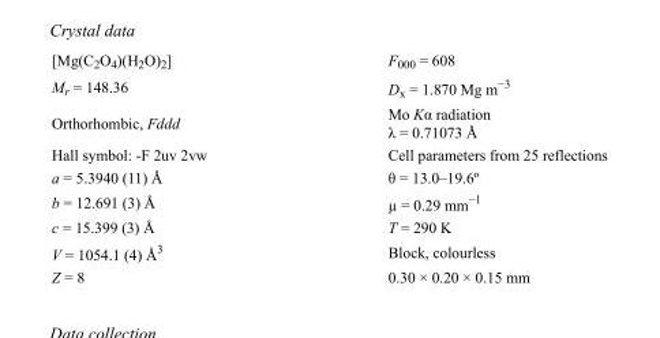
<table><tbody><tr><td>[Mg(C<sub>2</sub>O<sub>4</sub>)(H<sub>2</sub>O)<sub>2</sub>]</td><td>F<sub>000</sub> = 608</td></tr><tr><td>M<sub>r</sub> = 148.36</td><td>D<sub>x</sub> = 1.870 Mg m<sup>−3</sup></td></tr><tr><td>Orthorhombic, Fddd</td><td>Mo Kα radiation λ = 0.71073 Å</td></tr><tr><td>Hall symbol: -F 2uv 2vw</td><td>Cell parameters from 25 reflections</td></tr><tr><td>a = 5.3940 (11) Å</td><td>θ = 13.0–19.6º</td></tr><tr><td>b = 12.691 (3) Å</td><td>µ = 0.29 mm<sup>−1</sup></td></tr><tr><td>c = 15.399 (3) Å</td><td>T = 290 K</td></tr><tr><td>V = 1054.1 (4) Å<sup>3</sup></td><td>Block, colourless</td></tr><tr><td>Z = 8</td><td>0.30 × 0.20 × 0.15 mm</td></tr></tbody></table>